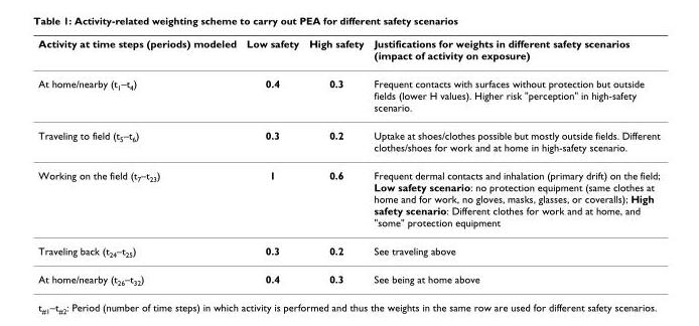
<table><thead><tr><td>Activity at time steps (periods) modeled</td><td>Low safety</td><td>High safety</td><td>Justifications for weights in different safety scenarios (impact of activity on exposure)</td></tr></thead><tbody><tr><td>At home/nearby (t<sub>1</sub>–t<sub>4</sub>)</td><td>0.4</td><td>0.3</td><td>Frequent contacts with surfaces without protection but outside fields (lower H values). Higher risk &quot;perception&quot; in high-safety scenario.</td></tr><tr><td>Traveling to field (t<sub>5</sub>–t<sub>6</sub>)</td><td>0.3</td><td>0.2</td><td>Uptake at shoes/clothes possible but mostly outside fields. Different clothes/shoes for work and at home in high-safety scenario.</td></tr><tr><td>Working on the field (t<sub>7</sub>–t<sub>23</sub>)</td><td>1</td><td>0.6</td><td>Frequent dermal contacts and inhalation (primary drift) on the field; Low safety scenario: no protection equipment (same clothes at home and for work, no gloves, masks, glasses, or coveralls); High safety scenario: Different clothes for work and at home, and &quot;some&quot; protection equipment</td></tr><tr><td>Traveling back (t<sub>24</sub>–t<sub>25</sub>)</td><td>0.3</td><td>0.2</td><td>See traveling above</td></tr><tr><td>At home/nearby (t<sub>26</sub>–t<sub>32</sub>)</td><td>0.4</td><td>0.3</td><td>See being at home above</td></tr></tbody></table>